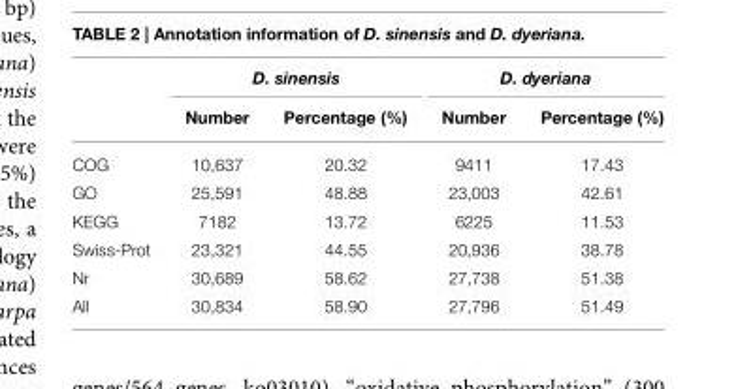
<table><thead><tr><td rowspan="2"></td><td colspan="2">D. sinensis</td><td colspan="2">D. dyeriana</td></tr><tr><td>Number</td><td>Percentage (%)</td><td>Number</td><td>Percentage (%)</td></tr></thead><tbody><tr><td>COG</td><td>10,637</td><td>20.32</td><td>9411</td><td>17.43</td></tr><tr><td>GO</td><td>25,591</td><td>48.88</td><td>23,003</td><td>42.61</td></tr><tr><td>KEGG</td><td>7182</td><td>13.72</td><td>6225</td><td>11.53</td></tr><tr><td>Swiss-Prot</td><td>23,321</td><td>44.55</td><td>20,936</td><td>38.78</td></tr><tr><td>Nr</td><td>30,689</td><td>58.62</td><td>27,738</td><td>51.38</td></tr><tr><td>All</td><td>30,834</td><td>58.90</td><td>27,796</td><td>51.49</td></tr></tbody></table>